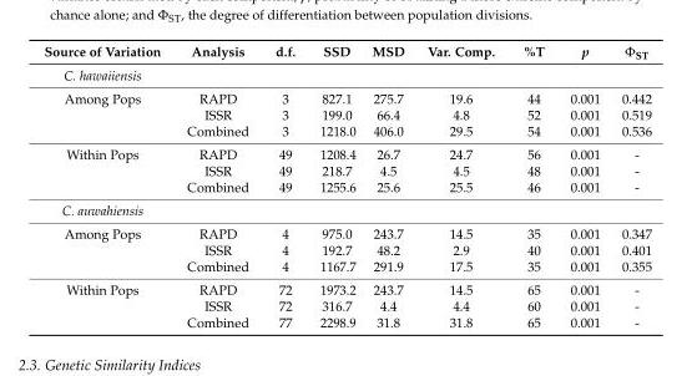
<table><thead><tr><td>Source of Variation</td><td>Analysis</td><td>d.f.</td><td>SSD</td><td>MSD</td><td>Var. Comp.</td><td>%T</td><td>p</td><td>Φ<sub>ST</sub></td></tr></thead><tbody><tr><td colspan="9">C. hawaiiensis</td></tr><tr><td rowspan="3">Among Pops</td><td>RAPD</td><td>3</td><td>827.1</td><td>275.7</td><td>19.6</td><td>44</td><td>0.001</td><td>0.442</td></tr><tr><td>ISSR</td><td>3</td><td>199.0</td><td>66.4</td><td>4.8</td><td>52</td><td>0.001</td><td>0.519</td></tr><tr><td>Combined</td><td>3</td><td>1218.0</td><td>406.0</td><td>29.5</td><td>54</td><td>0.001</td><td>0.536</td></tr><tr><td rowspan="3">Within Pops</td><td>RAPD</td><td>49</td><td>1208.4</td><td>26.7</td><td>24.7</td><td>56</td><td>0.001</td><td>-</td></tr><tr><td>ISSR</td><td>49</td><td>218.7</td><td>4.5</td><td>4.5</td><td>48</td><td>0.001</td><td>-</td></tr><tr><td>Combined</td><td>49</td><td>1255.6</td><td>25.6</td><td>25.5</td><td>46</td><td>0.001</td><td>-</td></tr><tr><td colspan="9">C. auwahiensis</td></tr><tr><td rowspan="3">Among Pops</td><td>RAPD</td><td>4</td><td>975.0</td><td>243.7</td><td>14.5</td><td>35</td><td>0.001</td><td>0.347</td></tr><tr><td>ISSR</td><td>4</td><td>192.7</td><td>48.2</td><td>2.9</td><td>40</td><td>0.001</td><td>0.401</td></tr><tr><td>Combined</td><td>4</td><td>1167.7</td><td>291.9</td><td>17.5</td><td>35</td><td>0.001</td><td>0.355</td></tr><tr><td rowspan="3">Within Pops</td><td>RAPD</td><td>72</td><td>1973.2</td><td>243.7</td><td>14.5</td><td>65</td><td>0.001</td><td>-</td></tr><tr><td>ISSR</td><td>72</td><td>316.7</td><td>4.4</td><td>4.4</td><td>60</td><td>0.001</td><td>-</td></tr><tr><td>Combined</td><td>77</td><td>2298.9</td><td>31.8</td><td>31.8</td><td>65</td><td>0.001</td><td>-</td></tr></tbody></table>